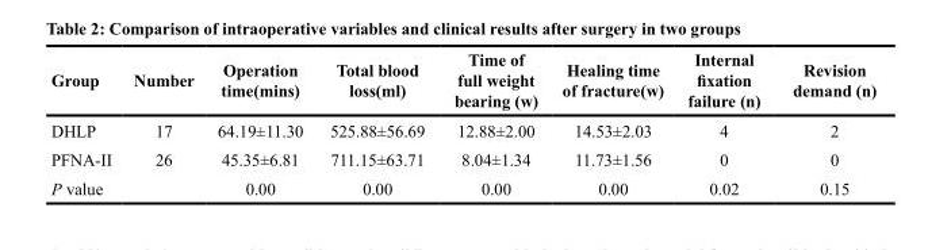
<table><thead><tr><td>Group</td><td>Number</td><td>Operation time(mins)</td><td>Total blood loss(ml)</td><td>Time of full weight bearing (w)</td><td>Healing time of fracture(w)</td><td>Internal fixation failure (n)</td><td>Revision demand (n)</td></tr></thead><tbody><tr><td>DHLP</td><td>17</td><td>64.19±11.30</td><td>525.88±56.69</td><td>12.88±2.00</td><td>14.53±2.03</td><td>4</td><td>2</td></tr><tr><td>PFNA-II</td><td>26</td><td>45.35±6.81</td><td>711.15±63.71</td><td>8.04±1.34</td><td>11.73±1.56</td><td>0</td><td>0</td></tr><tr><td>P value</td><td></td><td>0.00</td><td>0.00</td><td>0.00</td><td>0.00</td><td>0.02</td><td>0.15</td></tr></tbody></table>